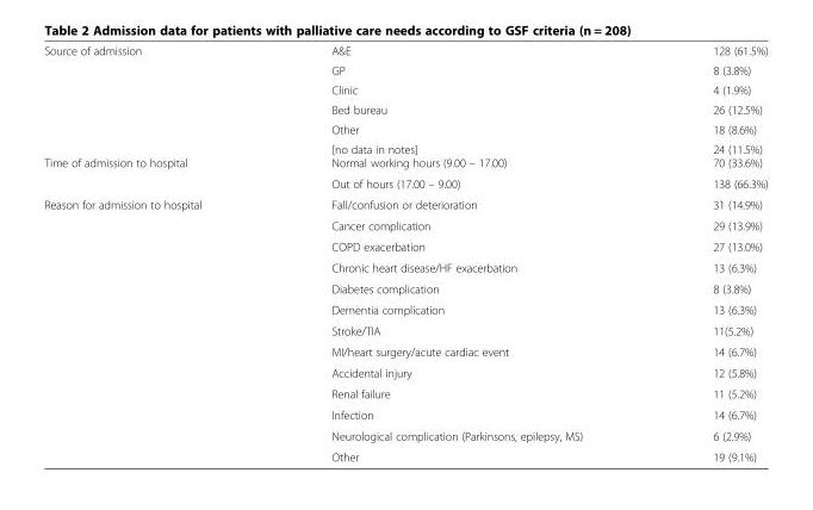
<table><tbody><tr><td rowspan="6">Source of admission</td><td>A&amp;E</td><td>128 (61.5%)</td></tr><tr><td>GP</td><td>8 (3.8%)</td></tr><tr><td>Clinic</td><td>4 (1.9%)</td></tr><tr><td>Bed bureau</td><td>26 (12.5%)</td></tr><tr><td>Other</td><td>18 (8.6%)</td></tr><tr><td>[no data in notes]</td><td>24 (11.5%)</td></tr><tr><td rowspan="2">Time of admission to hospital</td><td>Normal working hours (9.00 – 17.00)</td><td>70 (33.6%)</td></tr><tr><td>Out of hours (17.00 – 9.00)</td><td>138 (66.3%)</td></tr><tr><td rowspan="13">Reason for admission to hospital</td><td>Fall/confusion or deterioration</td><td>31 (14.9%)</td></tr><tr><td>Cancer complication</td><td>29 (13.9%)</td></tr><tr><td>COPD exacerbation</td><td>27 (13.0%)</td></tr><tr><td>Chronic heart disease/HF exacerbation</td><td>13 (6.3%)</td></tr><tr><td>Diabetes complication</td><td>8 (3.8%)</td></tr><tr><td>Dementia complication</td><td>13 (6.3%)</td></tr><tr><td>Stroke/TIA</td><td>11(5.2%)</td></tr><tr><td>MI/heart surgery/acute cardiac event</td><td>14 (6.7%)</td></tr><tr><td>Accidental injury</td><td>12 (5.8%)</td></tr><tr><td>Renal failure</td><td>11 (5.2%)</td></tr><tr><td>Infection</td><td>14 (6.7%)</td></tr><tr><td>Neurological complication (Parkinsons, epilepsy, MS)</td><td>6 (2.9%)</td></tr><tr><td>Other</td><td>19 (9.1%)</td></tr></tbody></table>